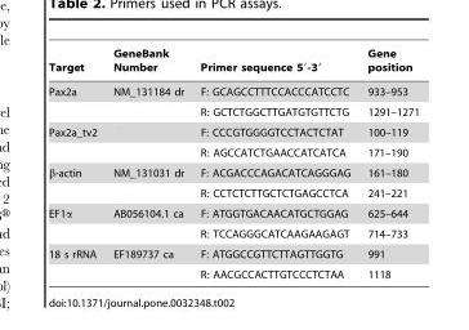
<table><thead><tr><td>Target</td><td>GeneBank Number</td><td>Primer sequence 5′-3′</td><td>Gene position</td></tr></thead><tbody><tr><td rowspan="2">Pax2a</td><td>NM_131184 dr</td><td>F: GCAGCCTTTCCACCCATCCTC</td><td>933–953</td></tr><tr><td></td><td>R: GCTCTGGCTTGATGTGTTCTG</td><td>1291–1271</td></tr><tr><td rowspan="2">Pax2a_tv2</td><td></td><td>F: CCCGTGGGGTCCTACTCTAT</td><td>100–119</td></tr><tr><td></td><td>R: AGCCATCTGAACCATCATCA</td><td>171–190</td></tr><tr><td rowspan="2">β-actin</td><td>NM_131031 dr</td><td>F: ACGACCCAGACATCAGGGAG</td><td>161–180</td></tr><tr><td></td><td>R: CCTCTCTTGCTCTGAGCCTCA</td><td>241–221</td></tr><tr><td rowspan="2">EF1α</td><td>AB056104.1 ca</td><td>F: ATGGTGACAACATGCTGGAG</td><td>625–644</td></tr><tr><td></td><td>R: TCCAGGGCATCAAGAAGAGT</td><td>714–733</td></tr><tr><td rowspan="2">18 s rRNA</td><td>EF189737 ca</td><td>F: ATGGCCGTTCTTAGTTGGTG</td><td>991</td></tr><tr><td></td><td>R: AACGCCACTTGTCCCTCTAA</td><td>1118</td></tr></tbody></table>